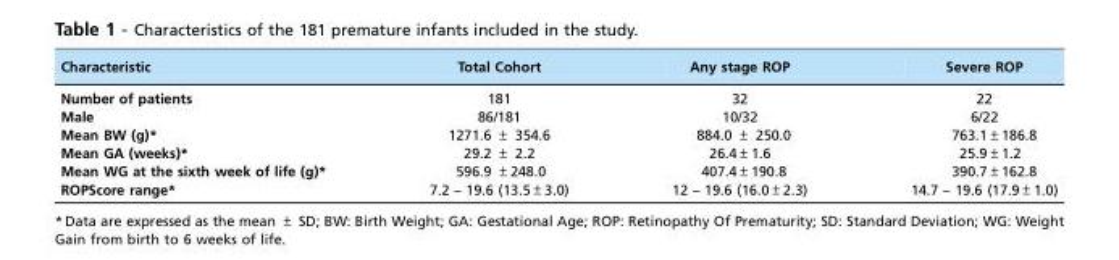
<table><thead><tr><td>Characteristic</td><td>Total Cohort</td><td>Any stage ROP</td><td>Severe ROP</td></tr></thead><tbody><tr><td>Number of patients</td><td>181</td><td>32</td><td>22</td></tr><tr><td>Male</td><td>86/181</td><td>10/32</td><td>6/22</td></tr><tr><td>Mean BW (g)*</td><td>1271.6 ± 354.6</td><td>884.0 ± 250.0</td><td>763.1±186.8</td></tr><tr><td>Mean GA (weeks)*</td><td>29.2 ± 2.2</td><td>26.4±1.6</td><td>25.9±1.2</td></tr><tr><td>Mean WG at the sixth week of life (g)*</td><td>596.9 ±248.0</td><td>407.4±190.8</td><td>390.7±162.8</td></tr><tr><td>ROPScore range*</td><td>7.2 – 19.6 (13.5±3.0)</td><td>12 – 19.6 (16.0±2.3)</td><td>14.7 – 19.6 (17.9±1.0)</td></tr></tbody></table>